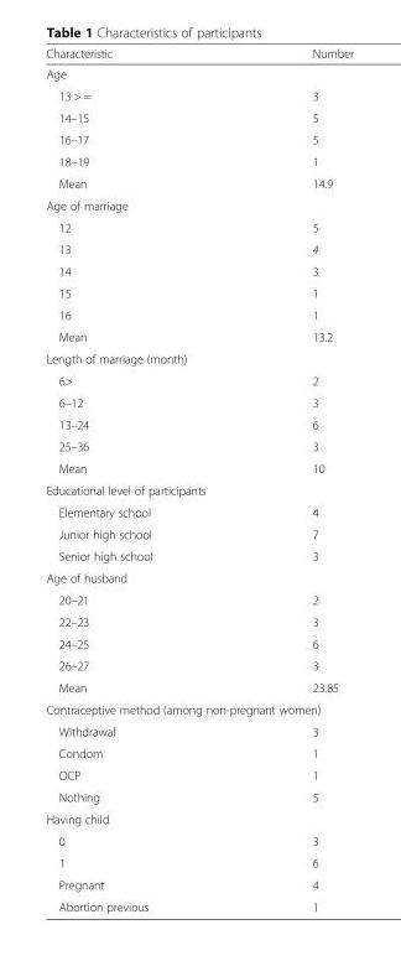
<table><thead><tr><td>Characteristic</td><td>Number</td></tr></thead><tbody><tr><td colspan="2">Age</td></tr><tr><td>13 &gt; =</td><td>3</td></tr><tr><td>14–15</td><td>5</td></tr><tr><td>16–17</td><td>5</td></tr><tr><td>18–19</td><td>1</td></tr><tr><td>Mean</td><td>14.9</td></tr><tr><td colspan="2">Age of marriage</td></tr><tr><td>12</td><td>5</td></tr><tr><td>13</td><td>4</td></tr><tr><td>14</td><td>3</td></tr><tr><td>15</td><td>1</td></tr><tr><td>16</td><td>1</td></tr><tr><td>Mean</td><td>13.2</td></tr><tr><td colspan="2">Length of marriage (month)</td></tr><tr><td>6&gt;</td><td>2</td></tr><tr><td>6–12</td><td>3</td></tr><tr><td>13–24</td><td>6</td></tr><tr><td>25–36</td><td>3</td></tr><tr><td>Mean</td><td>10</td></tr><tr><td colspan="2">Educational level of participants</td></tr><tr><td>Elementary school</td><td>4</td></tr><tr><td>Junior high school</td><td>7</td></tr><tr><td>Senior high school</td><td>3</td></tr><tr><td colspan="2">Age of husband</td></tr><tr><td>20–21</td><td>2</td></tr><tr><td>22–23</td><td>3</td></tr><tr><td>24–25</td><td>6</td></tr><tr><td>26–27</td><td>3</td></tr><tr><td>Mean</td><td>23.85</td></tr><tr><td colspan="2">Contraceptive method (among non-pregnant women)</td></tr><tr><td>Withdrawal</td><td>3</td></tr><tr><td>Condom</td><td>1</td></tr><tr><td>OCP</td><td>1</td></tr><tr><td>Nothing</td><td>5</td></tr><tr><td colspan="2">Having child</td></tr><tr><td>0</td><td>3</td></tr><tr><td>1</td><td>6</td></tr><tr><td>Pregnant</td><td>4</td></tr><tr><td>Abortion previous</td><td>1</td></tr></tbody></table>